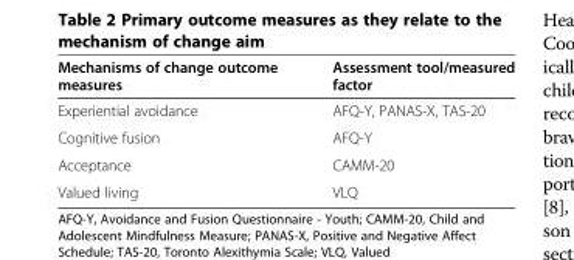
<table><thead><tr><td>Mechanisms of change outcome measures</td><td>Assessment tool/measured factor</td></tr></thead><tbody><tr><td>Experiential avoidance</td><td>AFQ-Y, PANAS-X, TAS-20</td></tr><tr><td>Cognitive fusion</td><td>AFQ-Y</td></tr><tr><td>Acceptance</td><td>CAMM-20</td></tr><tr><td>Valued living</td><td>VLQ</td></tr></tbody></table>